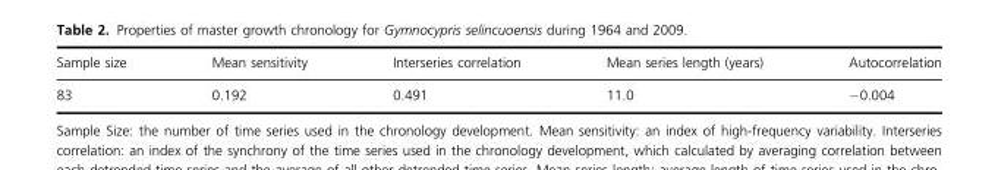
<table><thead><tr><td>Sample size</td><td>Mean sensitivity</td><td>Interseries correlation</td><td>Mean series length (years)</td><td>Autocorrelation</td></tr></thead><tbody><tr><td>83</td><td>0.192</td><td>0.491</td><td>11.0</td><td>−0.004</td></tr></tbody></table>